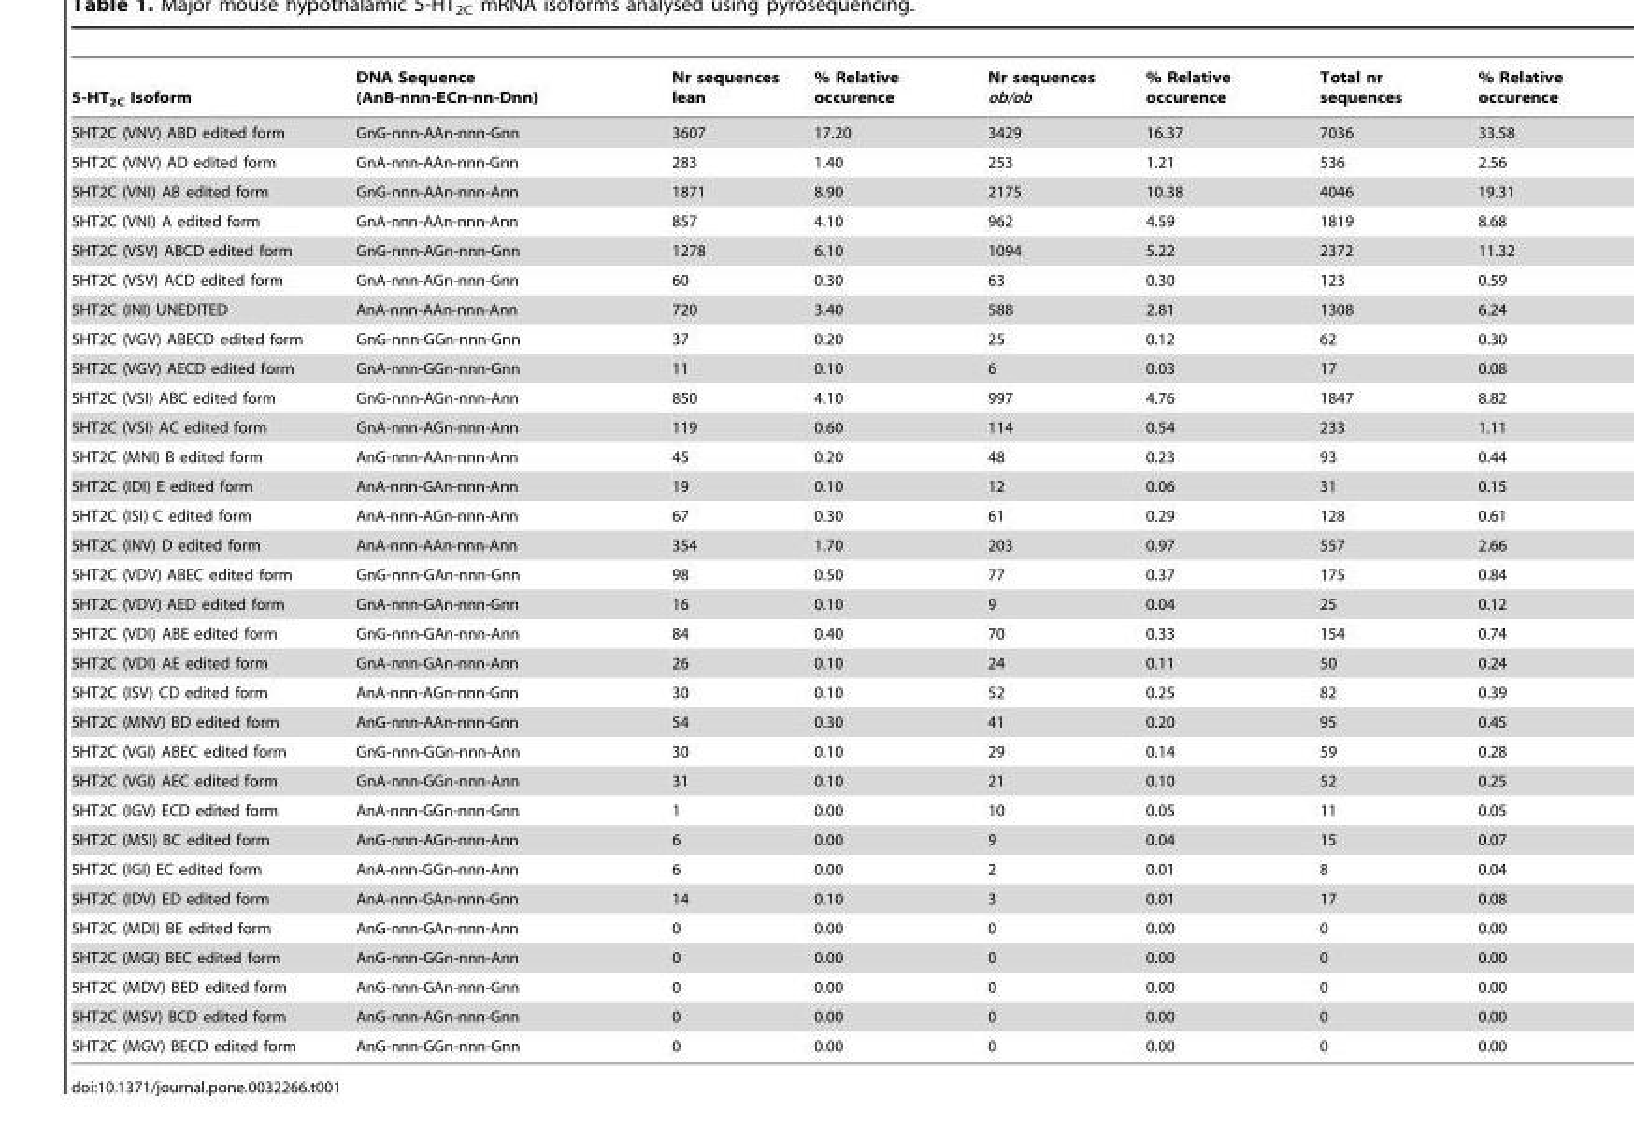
<table><thead><tr><td>5-HT<sub>2C</sub> Isoform</td><td>DNA Sequence (AnB-nnn-ECn-nn-Dnn)</td><td>Nr sequences lean</td><td>% Relative occurence</td><td>Nr sequences ob/ob</td><td>% Relative occurence</td><td>Total nr sequences</td><td>% Relative occurence</td></tr></thead><tbody><tr><td>5HT2C (VNV) ABD edited form</td><td>GnG-nnn-AAn-nnn-Gnn</td><td>3607</td><td>17.20</td><td>3429</td><td>16.37</td><td>7036</td><td>33.58</td></tr><tr><td>5HT2C (VNV) AD edited form</td><td>GnA-nnn-AAn-nnn-Gnn</td><td>283</td><td>1.40</td><td>253</td><td>1.21</td><td>536</td><td>2.56</td></tr><tr><td>5HT2C (VNI) AB edited form</td><td>GnG-nnn-AAn-nnn-Ann</td><td>1871</td><td>8.90</td><td>2175</td><td>10.38</td><td>4046</td><td>19.31</td></tr><tr><td>5HT2C (VNI) A edited form</td><td>GnA-nnn-AAn-nnn-Ann</td><td>857</td><td>4.10</td><td>962</td><td>4.59</td><td>1819</td><td>8.68</td></tr><tr><td>5HT2C (VSV) ABCD edited form</td><td>GnG-nnn-AGn-nnn-Gnn</td><td>1278</td><td>6.10</td><td>1094</td><td>5.22</td><td>2372</td><td>11.32</td></tr><tr><td>5HT2C (VSV) ACD edited form</td><td>GnA-nnn-AGn-nnn-Gnn</td><td>60</td><td>0.30</td><td>63</td><td>0.30</td><td>123</td><td>0.59</td></tr><tr><td>5HT2C (INI) UNEDITED</td><td>AnA-nnn-AAn-nnn-Ann</td><td>720</td><td>3.40</td><td>588</td><td>2.81</td><td>1308</td><td>6.24</td></tr><tr><td>5HT2C (VGV) ABECD edited form</td><td>GnG-nnn-GGn-nnn-Gnn</td><td>37</td><td>0.20</td><td>25</td><td>0.12</td><td>62</td><td>0.30</td></tr><tr><td>5HT2C (VGV) AECD edited form</td><td>GnA-nnn-GGn-nnn-Gnn</td><td>11</td><td>0.10</td><td>6</td><td>0.03</td><td>17</td><td>0.08</td></tr><tr><td>5HT2C (VSI) ABC edited form</td><td>GnG-nnn-AGn-nnn-Ann</td><td>850</td><td>4.10</td><td>997</td><td>4.76</td><td>1847</td><td>8.82</td></tr><tr><td>5HT2C (VSI) AC edited form</td><td>GnA-nnn-AGn-nnn-Ann</td><td>119</td><td>0.60</td><td>114</td><td>0.54</td><td>233</td><td>1.11</td></tr><tr><td>5HT2C (MNI) B edited form</td><td>AnG-nnn-AAn-nnn-Ann</td><td>45</td><td>0.20</td><td>48</td><td>0.23</td><td>93</td><td>0.44</td></tr><tr><td>5HT2C (IDI) E edited form</td><td>AnA-nnn-GAn-nnn-Ann</td><td>19</td><td>0.10</td><td>12</td><td>0.06</td><td>31</td><td>0.15</td></tr><tr><td>5HT2C (ISI) C edited form</td><td>AnA-nnn-AGn-nnn-Ann</td><td>67</td><td>0.30</td><td>61</td><td>0.29</td><td>128</td><td>0.61</td></tr><tr><td>5HT2C (INV) D edited form</td><td>AnA-nnn-AAn-nnn-Ann</td><td>354</td><td>1.70</td><td>203</td><td>0.97</td><td>557</td><td>2.66</td></tr><tr><td>5HT2C (VDV) ABEC edited form</td><td>GnG-nnn-GAn-nnn-Gnn</td><td>98</td><td>0.50</td><td>77</td><td>0.37</td><td>175</td><td>0.84</td></tr><tr><td>5HT2C (VDV) AED edited form</td><td>GnA-nnn-GAn-nnn-Gnn</td><td>16</td><td>0.10</td><td>9</td><td>0.04</td><td>25</td><td>0.12</td></tr><tr><td>5HT2C (VDI) ABE edited form</td><td>GnG-nnn-GAn-nnn-Ann</td><td>84</td><td>0.40</td><td>70</td><td>0.33</td><td>154</td><td>0.74</td></tr><tr><td>5HT2C (VDI) AE edited form</td><td>GnA-nnn-GAn-nnn-Ann</td><td>26</td><td>0.10</td><td>24</td><td>0.11</td><td>50</td><td>0.24</td></tr><tr><td>5HT2C (ISV) CD edited form</td><td>AnA-nnn-AGn-nnn-Gnn</td><td>30</td><td>0.10</td><td>52</td><td>0.25</td><td>82</td><td>0.39</td></tr><tr><td>5HT2C (MNV) BD edited form</td><td>AnG-nnn-AAn-nnn-Gnn</td><td>54</td><td>0.30</td><td>41</td><td>0.20</td><td>95</td><td>0.45</td></tr><tr><td>5HT2C (VGI) ABEC edited form</td><td>GnG-nnn-GGn-nnn-Ann</td><td>30</td><td>0.10</td><td>29</td><td>0.14</td><td>59</td><td>0.28</td></tr><tr><td>5HT2C (VGI) AEC edited form</td><td>GnA-nnn-GGn-nnn-Ann</td><td>31</td><td>0.10</td><td>21</td><td>0.10</td><td>52</td><td>0.25</td></tr><tr><td>5HT2C (IGV) ECD edited form</td><td>AnA-nnn-GGn-nnn-Gnn</td><td>1</td><td>0.00</td><td>10</td><td>0.05</td><td>11</td><td>0.05</td></tr><tr><td>5HT2C (MSI) BC edited form</td><td>AnG-nnn-AGn-nnn-Ann</td><td>6</td><td>0.00</td><td>9</td><td>0.04</td><td>15</td><td>0.07</td></tr><tr><td>5HT2C (IGI) EC edited form</td><td>AnA-nnn-GGn-nnn-Ann</td><td>6</td><td>0.00</td><td>2</td><td>0.01</td><td>8</td><td>0.04</td></tr><tr><td>5HT2C (IDV) ED edited form</td><td>AnA-nnn-GAn-nnn-Gnn</td><td>14</td><td>0.10</td><td>3</td><td>0.01</td><td>17</td><td>0.08</td></tr><tr><td>5HT2C (MDI) BE edited form</td><td>AnG-nnn-GAn-nnn-Ann</td><td>0</td><td>0.00</td><td>0</td><td>0.00</td><td>0</td><td>0.00</td></tr><tr><td>5HT2C (MGI) BEC edited form</td><td>AnG-nnn-GGn-nnn-Ann</td><td>0</td><td>0.00</td><td>0</td><td>0.00</td><td>0</td><td>0.00</td></tr><tr><td>5HT2C (MDV) BED edited form</td><td>AnG-nnn-GAn-nnn-Gnn</td><td>0</td><td>0.00</td><td>0</td><td>0.00</td><td>0</td><td>0.00</td></tr><tr><td>5HT2C (MSV) BCD edited form</td><td>AnG-nnn-AGn-nnn-Gnn</td><td>0</td><td>0.00</td><td>0</td><td>0.00</td><td>0</td><td>0.00</td></tr><tr><td>5HT2C (MGV) BECD edited form</td><td>AnG-nnn-GGn-nnn-Gnn</td><td>0</td><td>0.00</td><td>0</td><td>0.00</td><td>0</td><td>0.00</td></tr></tbody></table>